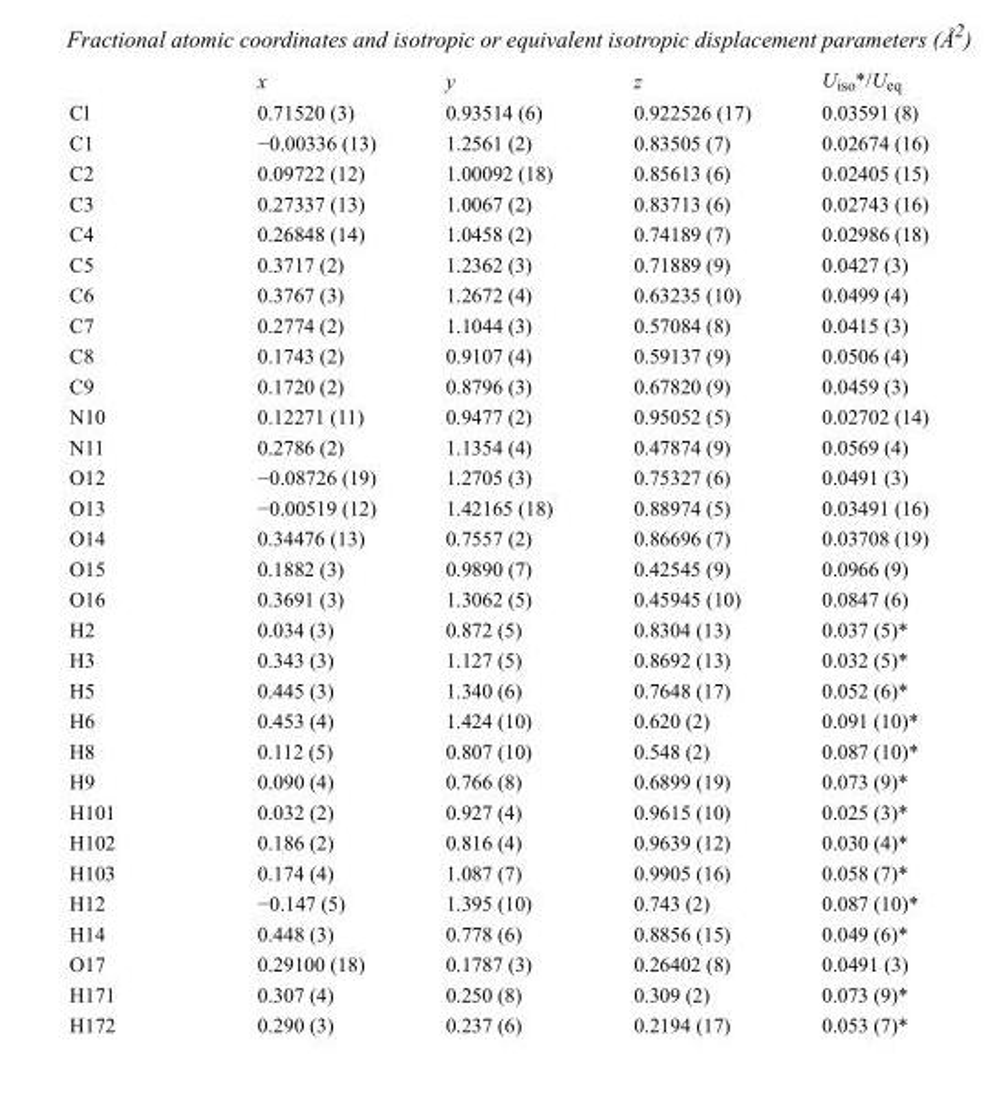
<table><thead><tr><td></td><td>x</td><td>y</td><td>z</td><td>U<sub>iso</sub>*/U<sub>eq</sub></td></tr></thead><tbody><tr><td>Cl</td><td>0.71520 (3)</td><td>0.93514 (6)</td><td>0.922526 (17)</td><td>0.03591 (8)</td></tr><tr><td>C1</td><td>−0.00336 (13)</td><td>1.2561 (2)</td><td>0.83505 (7)</td><td>0.02674 (16)</td></tr><tr><td>C2</td><td>0.09722 (12)</td><td>1.00092 (18)</td><td>0.85613 (6)</td><td>0.02405 (15)</td></tr><tr><td>C3</td><td>0.27337 (13)</td><td>1.0067 (2)</td><td>0.83713 (6)</td><td>0.02743 (16)</td></tr><tr><td>C4</td><td>0.26848 (14)</td><td>1.0458 (2)</td><td>0.74189 (7)</td><td>0.02986 (18)</td></tr><tr><td>C5</td><td>0.3717 (2)</td><td>1.2362 (3)</td><td>0.71889 (9)</td><td>0.0427 (3)</td></tr><tr><td>C6</td><td>0.3767 (3)</td><td>1.2672 (4)</td><td>0.63235 (10)</td><td>0.0499 (4)</td></tr><tr><td>C7</td><td>0.2774 (2)</td><td>1.1044 (3)</td><td>0.57084 (8)</td><td>0.0415 (3)</td></tr><tr><td>C8</td><td>0.1743 (2)</td><td>0.9107 (4)</td><td>0.59137 (9)</td><td>0.0506 (4)</td></tr><tr><td>C9</td><td>0.1720 (2)</td><td>0.8796 (3)</td><td>0.67820 (9)</td><td>0.0459 (3)</td></tr><tr><td>N10</td><td>0.12271 (11)</td><td>0.9477 (2)</td><td>0.95052 (5)</td><td>0.02702 (14)</td></tr><tr><td>N11</td><td>0.2786 (2)</td><td>1.1354 (4)</td><td>0.47874 (9)</td><td>0.0569 (4)</td></tr><tr><td>O12</td><td>−0.08726 (19)</td><td>1.2705 (3)</td><td>0.75327 (6)</td><td>0.0491 (3)</td></tr><tr><td>O13</td><td>−0.00519 (12)</td><td>1.42165 (18)</td><td>0.88974 (5)</td><td>0.03491 (16)</td></tr><tr><td>O14</td><td>0.34476 (13)</td><td>0.7557 (2)</td><td>0.86696 (7)</td><td>0.03708 (19)</td></tr><tr><td>O15</td><td>0.1882 (3)</td><td>0.9890 (7)</td><td>0.42545 (9)</td><td>0.0966 (9)</td></tr><tr><td>O16</td><td>0.3691 (3)</td><td>1.3062 (5)</td><td>0.45945 (10)</td><td>0.0847 (6)</td></tr><tr><td>H2</td><td>0.034 (3)</td><td>0.872 (5)</td><td>0.8304 (13)</td><td>0.037 (5)*</td></tr><tr><td>H3</td><td>0.343 (3)</td><td>1.127 (5)</td><td>0.8692 (13)</td><td>0.032 (5)*</td></tr><tr><td>H5</td><td>0.445 (3)</td><td>1.340 (6)</td><td>0.7648 (17)</td><td>0.052 (6)*</td></tr><tr><td>H6</td><td>0.453 (4)</td><td>1.424 (10)</td><td>0.620 (2)</td><td>0.091 (10)*</td></tr><tr><td>H8</td><td>0.112 (5)</td><td>0.807 (10)</td><td>0.548 (2)</td><td>0.087 (10)*</td></tr><tr><td>H9</td><td>0.090 (4)</td><td>0.766 (8)</td><td>0.6899 (19)</td><td>0.073 (9)*</td></tr><tr><td>H101</td><td>0.032 (2)</td><td>0.927 (4)</td><td>0.9615 (10)</td><td>0.025 (3)*</td></tr><tr><td>H102</td><td>0.186 (2)</td><td>0.816 (4)</td><td>0.9639 (12)</td><td>0.030 (4)*</td></tr><tr><td>H103</td><td>0.174 (4)</td><td>1.087 (7)</td><td>0.9905 (16)</td><td>0.058 (7)*</td></tr><tr><td>H12</td><td>−0.147 (5)</td><td>1.395 (10)</td><td>0.743 (2)</td><td>0.087 (10)*</td></tr><tr><td>H14</td><td>0.448 (3)</td><td>0.778 (6)</td><td>0.8856 (15)</td><td>0.049 (6)*</td></tr><tr><td>O17</td><td>0.29100 (18)</td><td>0.1787 (3)</td><td>0.26402 (8)</td><td>0.0491 (3)</td></tr><tr><td>H171</td><td>0.307 (4)</td><td>0.250 (8)</td><td>0.309 (2)</td><td>0.073 (9)*</td></tr><tr><td>H172</td><td>0.290 (3)</td><td>0.237 (6)</td><td>0.2194 (17)</td><td>0.053 (7)*</td></tr></tbody></table>